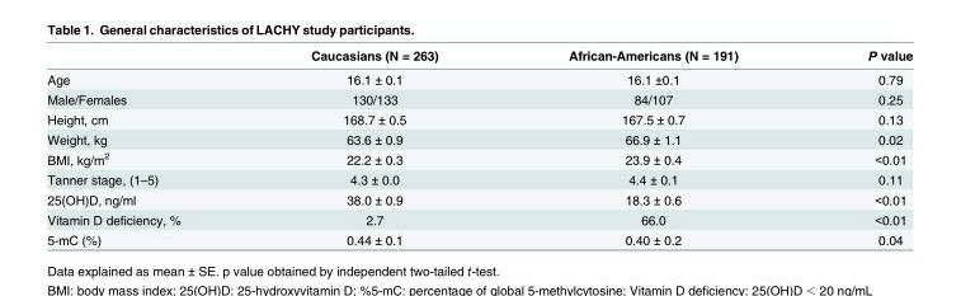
<table><thead><tr><td></td><td>Caucasians (N = 263)</td><td>African-Americans (N = 191)</td><td>P value</td></tr></thead><tbody><tr><td>Age</td><td>16.1 ± 0.1</td><td>16.1 ±0.1</td><td>0.79</td></tr><tr><td>Male/Females</td><td>130/133</td><td>84/107</td><td>0.25</td></tr><tr><td>Height, cm</td><td>168.7 ± 0.5</td><td>167.5 ± 0.7</td><td>0.13</td></tr><tr><td>Weight, kg</td><td>63.6 ± 0.9</td><td>66.9 ± 1.1</td><td>0.02</td></tr><tr><td>BMI, kg/m<sup>2</sup></td><td>22.2 ± 0.3</td><td>23.9 ± 0.4</td><td>&lt;0.01</td></tr><tr><td>Tanner stage, (1–5)</td><td>4.3 ± 0.0</td><td>4.4 ± 0.1</td><td>0.11</td></tr><tr><td>25(OH)D, ng/ml</td><td>38.0 ± 0.9</td><td>18.3 ± 0.6</td><td>&lt;0.01</td></tr><tr><td>Vitamin D deficiency, %</td><td>2.7</td><td>66.0</td><td>&lt;0.01</td></tr><tr><td>5-mC (%)</td><td>0.44 ± 0.1</td><td>0.40 ± 0.2</td><td>0.04</td></tr></tbody></table>